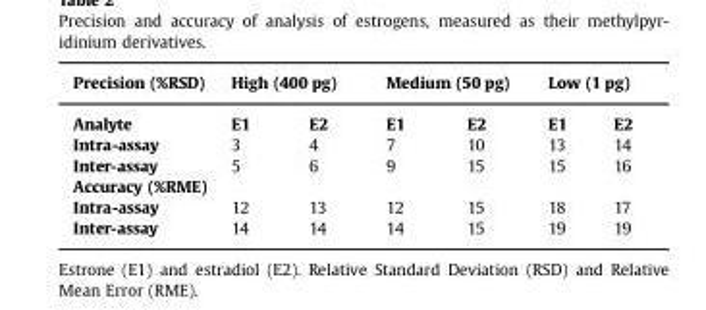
<table><thead><tr><td rowspan="2">Precision (%RSD) Analyte</td><td colspan="2">High (400 pg)</td><td colspan="2">Medium (50 pg)</td><td colspan="2">Low (1 pg)</td></tr><tr><td>E1</td><td>E2</td><td>E1</td><td>E2</td><td>E1</td><td>E2</td></tr></thead><tbody><tr><td>Intra-assay</td><td>3</td><td>4</td><td>7</td><td>10</td><td>13</td><td>14</td></tr><tr><td>Inter-assay</td><td>5</td><td>6</td><td>9</td><td>15</td><td>15</td><td>16</td></tr><tr><td colspan="7">Accuracy (%RME)</td></tr><tr><td>Intra-assay</td><td>12</td><td>13</td><td>12</td><td>15</td><td>18</td><td>17</td></tr><tr><td>Inter-assay</td><td>14</td><td>14</td><td>14</td><td>15</td><td>19</td><td>19</td></tr></tbody></table>